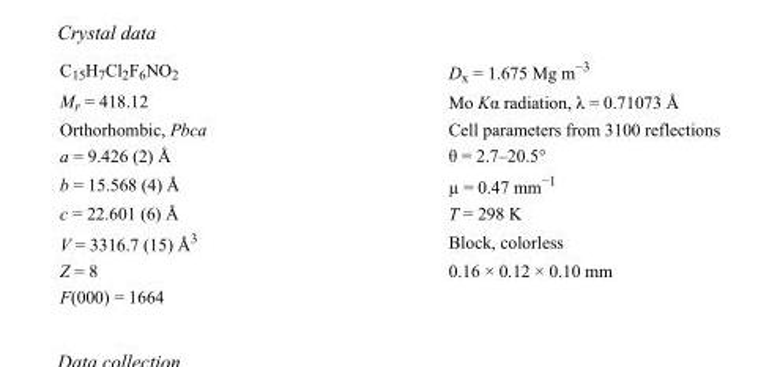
<table><tbody><tr><td>C<sub>15</sub>H<sub>7</sub>Cl<sub>2</sub>F<sub>6</sub>NO<sub>2</sub></td><td>D<sub>x</sub> = 1.675 Mg m<sup>−3</sup></td></tr><tr><td>M<sub>r</sub> = 418.12</td><td>Mo Kα radiation, λ = 0.71073 Å</td></tr><tr><td>Orthorhombic, Pbca</td><td>Cell parameters from 3100 reflections</td></tr><tr><td>a = 9.426 (2) Å</td><td>θ = 2.7–20.5°</td></tr><tr><td>b = 15.568 (4) Å</td><td>µ = 0.47 mm<sup>−1</sup></td></tr><tr><td>c = 22.601 (6) Å</td><td>T = 298 K</td></tr><tr><td>V = 3316.7 (15) Å<sup>3</sup></td><td>Block, colorless</td></tr><tr><td>Z = 8</td><td>0.16 × 0.12 × 0.10 mm</td></tr><tr><td>F(000) = 1664</td><td></td></tr></tbody></table>